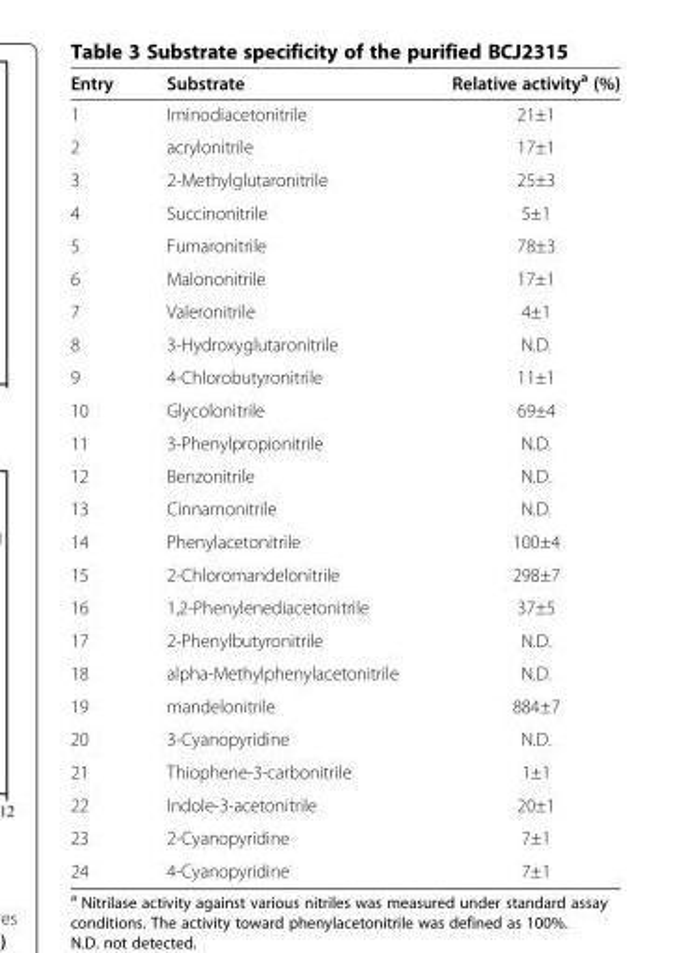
<table><thead><tr><td>Entry</td><td>Substrate</td><td>Relative activity<sup>a</sup> (%)</td></tr></thead><tbody><tr><td>1</td><td>Iminodiacetonitrile</td><td>21±1</td></tr><tr><td>2</td><td>acrylonitrile</td><td>17±1</td></tr><tr><td>3</td><td>2-Methylglutaronitrile</td><td>25±3</td></tr><tr><td>4</td><td>Succinonitrile</td><td>5±1</td></tr><tr><td>5</td><td>Fumaronitrile</td><td>78±3</td></tr><tr><td>6</td><td>Malononitrile</td><td>17±1</td></tr><tr><td>7</td><td>Valeronitrile</td><td>4±1</td></tr><tr><td>8</td><td>3-Hydroxyglutaronitrile</td><td>N.D.</td></tr><tr><td>9</td><td>4-Chlorobutyronitrile</td><td>11±1</td></tr><tr><td>10</td><td>Glycolonitrile</td><td>69±4</td></tr><tr><td>11</td><td>3-Phenylpropionitrile</td><td>N.D.</td></tr><tr><td>12</td><td>Benzonitrile</td><td>N.D.</td></tr><tr><td>13</td><td>Cinnamonitrile</td><td>N.D.</td></tr><tr><td>14</td><td>Phenylacetonitrile</td><td>100±4</td></tr><tr><td>15</td><td>2-Chloromandelonitrile</td><td>298±7</td></tr><tr><td>16</td><td>1,2-Phenylenediacetonitrile</td><td>37±5</td></tr><tr><td>17</td><td>2-Phenylbutyronitrile</td><td>N.D.</td></tr><tr><td>18</td><td>alpha-Methylphenylacetonitrile</td><td>N.D.</td></tr><tr><td>19</td><td>mandelonitrile</td><td>884±7</td></tr><tr><td>20</td><td>3-Cyanopyridine</td><td>N.D.</td></tr><tr><td>21</td><td>Thiophene-3-carbonitrile</td><td>1±1</td></tr><tr><td>22</td><td>Indole-3-acetonitrile</td><td>20±1</td></tr><tr><td>23</td><td>2-Cyanopyridine</td><td>7±1</td></tr><tr><td>24</td><td>4-Cyanopyridine</td><td>7±1</td></tr></tbody></table>